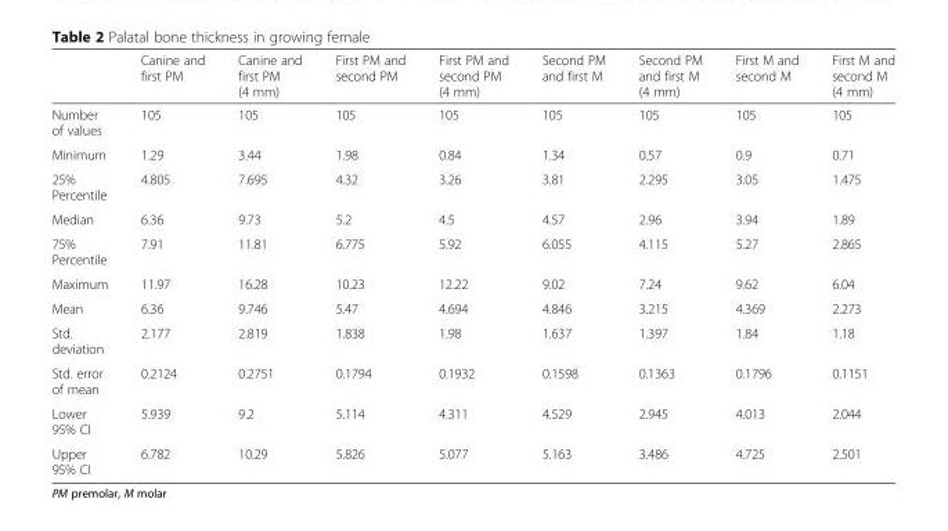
<table><thead><tr><td></td><td>Canine and first PM</td><td>Canine and first PM (4 mm)</td><td>First PM and second PM</td><td>First PM and second PM (4 mm)</td><td>Second PM and first M</td><td>Second PM and first M (4 mm)</td><td>First M and second M</td><td>First M and second M (4 mm)</td></tr></thead><tbody><tr><td>Number of values</td><td>105</td><td>105</td><td>105</td><td>105</td><td>105</td><td>105</td><td>105</td><td>105</td></tr><tr><td>Minimum</td><td>1.29</td><td>3.44</td><td>1.98</td><td>0.84</td><td>1.34</td><td>0.57</td><td>0.9</td><td>0.71</td></tr><tr><td>25% Percentile</td><td>4.805</td><td>7.695</td><td>4.32</td><td>3.26</td><td>3.81</td><td>2.295</td><td>3.05</td><td>1.475</td></tr><tr><td>Median</td><td>6.36</td><td>9.73</td><td>5.2</td><td>4.5</td><td>4.57</td><td>2.96</td><td>3.94</td><td>1.89</td></tr><tr><td>75% Percentile</td><td>7.91</td><td>11.81</td><td>6.775</td><td>5.92</td><td>6.055</td><td>4.115</td><td>5.27</td><td>2.865</td></tr><tr><td>Maximum</td><td>11.97</td><td>16.28</td><td>10.23</td><td>12.22</td><td>9.02</td><td>7.24</td><td>9.62</td><td>6.04</td></tr><tr><td>Mean</td><td>6.36</td><td>9.746</td><td>5.47</td><td>4.694</td><td>4.846</td><td>3.215</td><td>4.369</td><td>2.273</td></tr><tr><td>Std. deviation</td><td>2.177</td><td>2.819</td><td>1.838</td><td>1.98</td><td>1.637</td><td>1.397</td><td>1.84</td><td>1.18</td></tr><tr><td>Std. error of mean</td><td>0.2124</td><td>0.2751</td><td>0.1794</td><td>0.1932</td><td>0.1598</td><td>0.1363</td><td>0.1796</td><td>0.1151</td></tr><tr><td>Lower 95% CI</td><td>5.939</td><td>9.2</td><td>5.114</td><td>4.311</td><td>4.529</td><td>2.945</td><td>4.013</td><td>2.044</td></tr><tr><td>Upper 95% CI</td><td>6.782</td><td>10.29</td><td>5.826</td><td>5.077</td><td>5.163</td><td>3.486</td><td>4.725</td><td>2.501</td></tr></tbody></table>